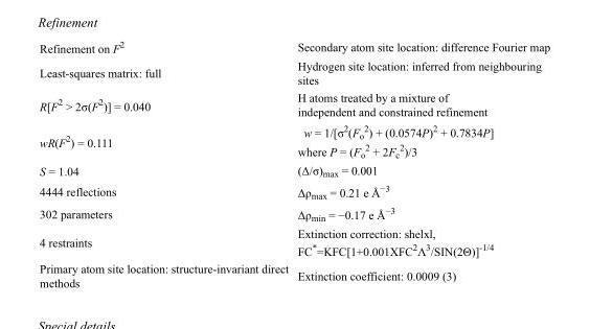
<table><tbody><tr><td>Refinement on F<sup>2</sup></td><td>Secondary atom site location: difference Fourier map</td></tr><tr><td>Least-squares matrix: full</td><td>Hydrogen site location: inferred from neighbouring sites</td></tr><tr><td>R[F<sup>2</sup> &gt; 2σ(F<sup>2</sup>)] = 0.040</td><td>H atoms treated by a mixture of independent and constrained refinement</td></tr><tr><td>wR(F<sup>2</sup>) = 0.111</td><td>w = 1/[σ<sup>2</sup>(F<sub>o</sub> <sup>2</sup>) + (0.0574P)<sup>2</sup> + 0.7834P] where P = (F<sub>o</sub> <sup>2</sup> + 2F<sub>c</sub> <sup>2</sup>)/3</td></tr><tr><td>S = 1.04</td><td>(Δ/σ)<sub>max</sub> = 0.001</td></tr><tr><td>4444 reflections</td><td>Δρ<sub>max</sub> = 0.21 e Å<sup>−3</sup></td></tr><tr><td>302 parameters</td><td>Δρ<sub>min</sub> = −0.17 e Å<sup>−3</sup></td></tr><tr><td>4 restraints</td><td>Extinction correction: shelxl, FC*=KFC[1+0.001XFC<sup>2</sup>Λ<sup>3</sup>/SIN(2Θ)]<sup>-1/4</sup></td></tr><tr><td>Primary atom site location: structure-invariant direct methods</td><td>Extinction coefficient: 0.0009 (3)</td></tr></tbody></table>